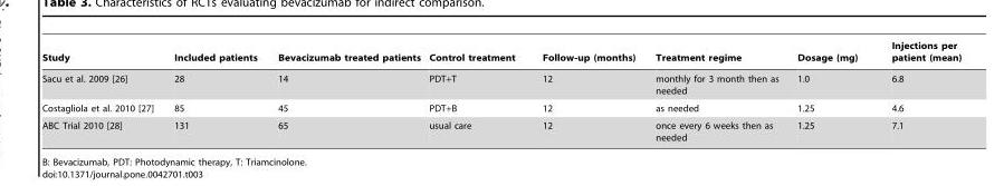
<table><thead><tr><td>Study</td><td>Included patients</td><td>Bevacizumab treated patients</td><td>Control treatment</td><td>Follow-up (months)</td><td>Treatment regime</td><td>Dosage (mg)</td><td>Injections per patient (mean)</td></tr></thead><tbody><tr><td>Sacu et al. 2009 [26]</td><td>28</td><td>14</td><td>PDT+T</td><td>12</td><td>monthly for 3 month then as needed</td><td>1.0</td><td>6.8</td></tr><tr><td>Costagliola et al. 2010 [27]</td><td>85</td><td>45</td><td>PDT+B</td><td>12</td><td>as needed</td><td>1.25</td><td>4.6</td></tr><tr><td>ABC Trial 2010 [28]</td><td>131</td><td>65</td><td>usual care</td><td>12</td><td>once every 6 weeks then as needed</td><td>1.25</td><td>7.1</td></tr></tbody></table>